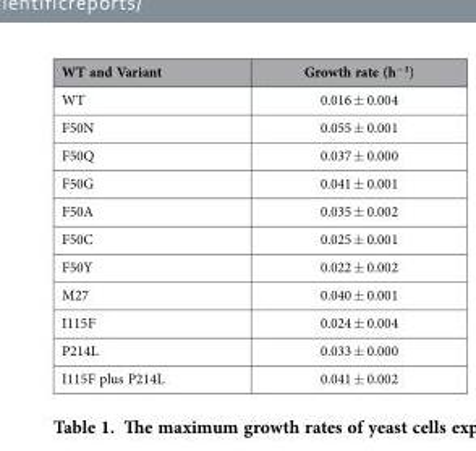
<table><thead><tr><td>WT and Variant</td><td>Growth rate (h<sup>−1</sup>)</td></tr></thead><tbody><tr><td>WT</td><td>0.016 ± 0.004</td></tr><tr><td>F50N</td><td>0.055 ± 0.001</td></tr><tr><td>F50Q</td><td>0.037 ± 0.000</td></tr><tr><td>F50G</td><td>0.041 ± 0.001</td></tr><tr><td>F50A</td><td>0.035 ± 0.002</td></tr><tr><td>F50C</td><td>0.025 ± 0.001</td></tr><tr><td>F50Y</td><td>0.022 ± 0.002</td></tr><tr><td>M27</td><td>0.040 ± 0.001</td></tr><tr><td>I115F</td><td>0.024 ± 0.004</td></tr><tr><td>P214L</td><td>0.033 ± 0.000</td></tr><tr><td>I115F plus P214L</td><td>0.041 ± 0.002</td></tr></tbody></table>